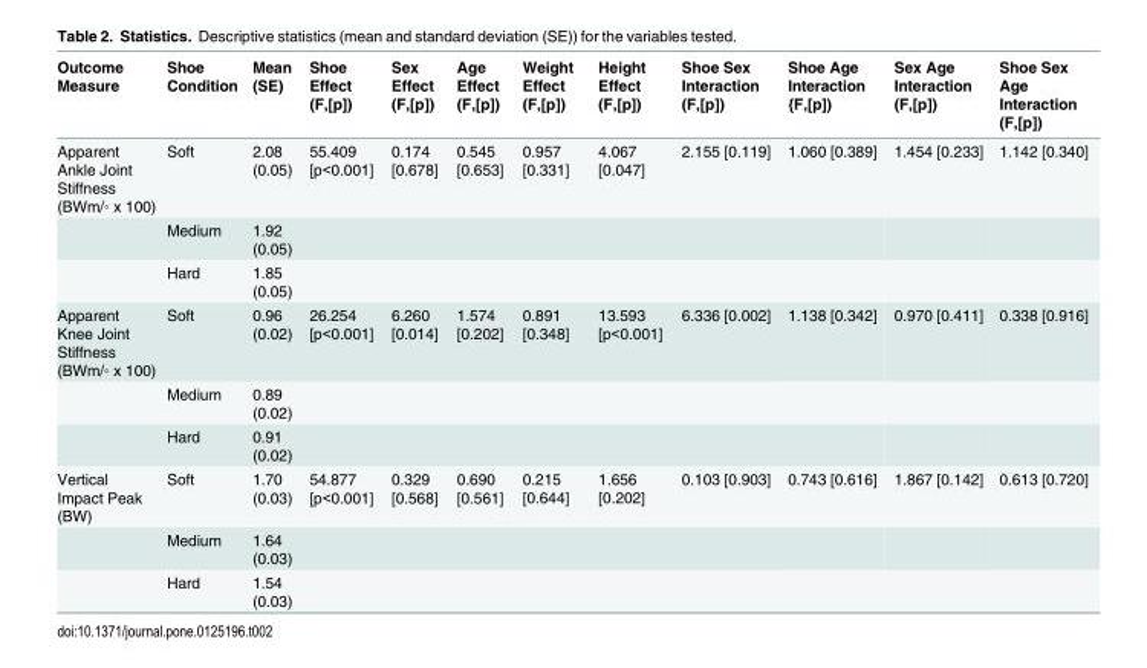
<table><thead><tr><td>Outcome Measure</td><td>Shoe Condition</td><td>Mean (SE)</td><td>Shoe Effect (F,[p])</td><td>Sex Effect (F,[p])</td><td>Age Effect (F,[p])</td><td>Weight Effect (F,[p])</td><td>Height Effect (F,[p])</td><td>Shoe Sex Interaction (F,[p])</td><td>Shoe Age Interaction {F,[p])</td><td>Sex Age Interaction (F,[p])</td><td>Shoe Sex Age Interaction (F,[p])</td></tr></thead><tbody><tr><td rowspan="3">Apparent Ankle Joint Stiffness (BWm/◦ x 100)</td><td>Soft</td><td>2.08 (0.05)</td><td>55.409 [p&lt;0.001]</td><td>0.174 [0.678]</td><td>0.545 [0.653]</td><td>0.957 [0.331]</td><td>4.067 [0.047]</td><td>2.155 [0.119]</td><td>1.060 [0.389]</td><td>1.454 [0.233]</td><td>1.142 [0.340]</td></tr><tr><td>Medium</td><td>1.92 (0.05)</td><td></td><td></td><td></td><td></td><td></td><td></td><td></td><td></td><td></td></tr><tr><td>Hard</td><td>1.85 (0.05)</td><td></td><td></td><td></td><td></td><td></td><td></td><td></td><td></td><td></td></tr><tr><td rowspan="3">Apparent Knee Joint Stiffness (BWm/◦ x 100)</td><td>Soft</td><td>0.96 (0.02)</td><td>26.254 [p&lt;0.001]</td><td>6.260 [0.014]</td><td>1.574 [0.202]</td><td>0.891 [0.348]</td><td>13.593 [p&lt;0.001]</td><td>6.336 [0.002]</td><td>1.138 [0.342]</td><td>0.970 [0.411]</td><td>0.338 [0.916]</td></tr><tr><td>Medium</td><td>0.89 (0.02)</td><td></td><td></td><td></td><td></td><td></td><td></td><td></td><td></td><td></td></tr><tr><td>Hard</td><td>0.91 (0.02)</td><td></td><td></td><td></td><td></td><td></td><td></td><td></td><td></td><td></td></tr><tr><td rowspan="3">Vertical Impact Peak (BW)</td><td>Soft</td><td>1.70 (0.03)</td><td>54.877 [p&lt;0.001]</td><td>0.329 [0.568]</td><td>0.690 [0.561]</td><td>0.215 [0.644]</td><td>1.656 [0.202]</td><td>0.103 [0.903]</td><td>0.743 [0.616]</td><td>1.867 [0.142]</td><td>0.613 [0.720]</td></tr><tr><td>Medium</td><td>1.64 (0.03)</td><td></td><td></td><td></td><td></td><td></td><td></td><td></td><td></td><td></td></tr><tr><td>Hard</td><td>1.54 (0.03)</td><td></td><td></td><td></td><td></td><td></td><td></td><td></td><td></td><td></td></tr></tbody></table>